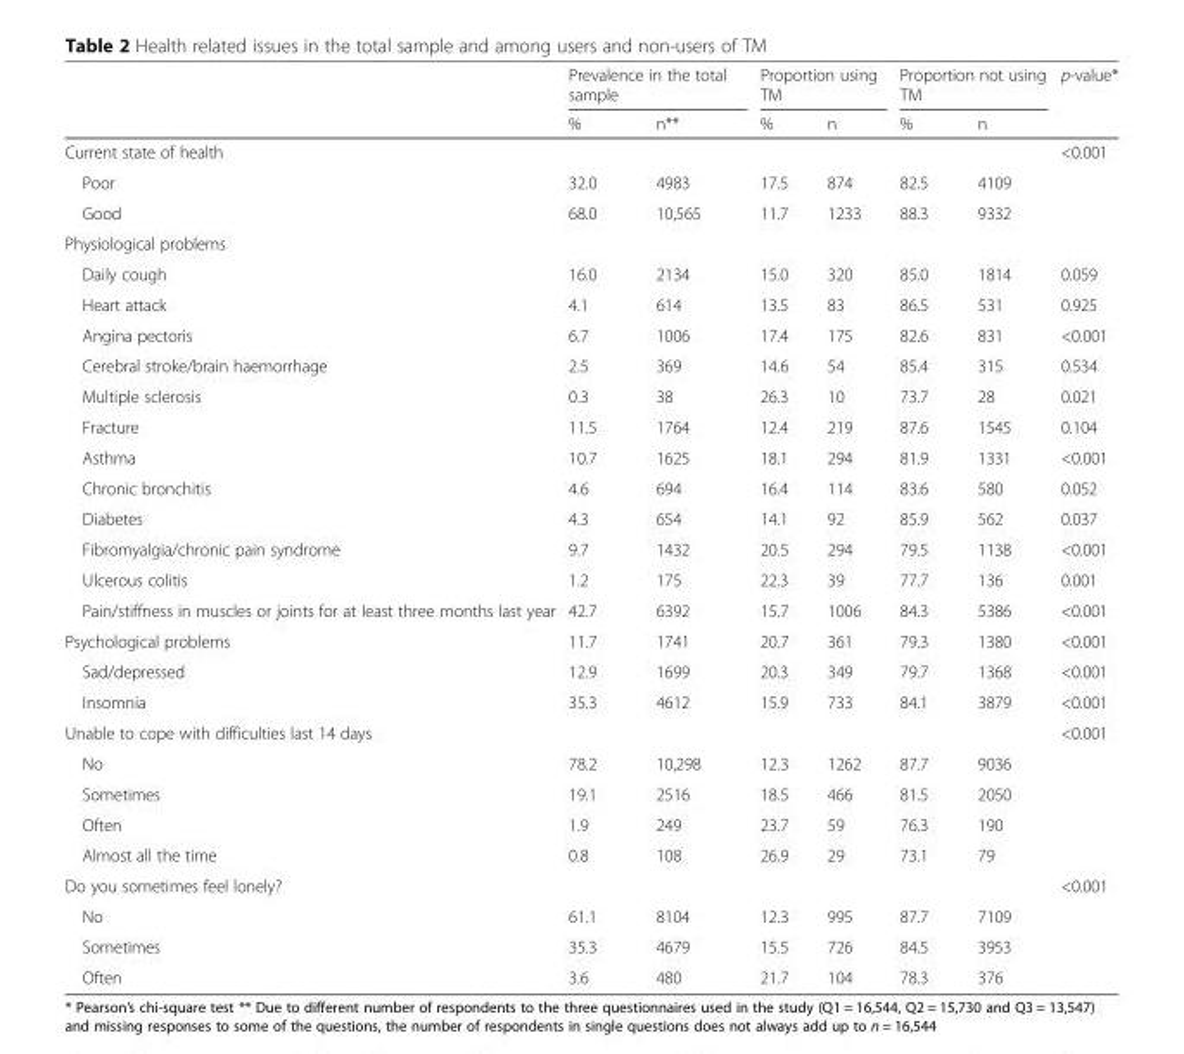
<table><thead><tr><td rowspan="2"></td><td colspan="2">Prevalence in the total sample</td><td colspan="2">Proportion using TM</td><td colspan="2">Proportion not using TM</td><td rowspan="2">p-value*</td></tr><tr><td>%</td><td>n**</td><td>%</td><td>n</td><td>%</td><td>n</td></tr></thead><tbody><tr><td>Current state of health</td><td></td><td></td><td></td><td></td><td></td><td></td><td>&lt;0.001</td></tr><tr><td>Poor</td><td>32.0</td><td>4983</td><td>17.5</td><td>874</td><td>82.5</td><td>4109</td><td></td></tr><tr><td>Good</td><td>68.0</td><td>10,565</td><td>11.7</td><td>1233</td><td>88.3</td><td>9332</td><td></td></tr><tr><td colspan="8">Physiological problems</td></tr><tr><td>Daily cough</td><td>16.0</td><td>2134</td><td>15.0</td><td>320</td><td>85.0</td><td>1814</td><td>0.059</td></tr><tr><td>Heart attack</td><td>4.1</td><td>614</td><td>13.5</td><td>83</td><td>86.5</td><td>531</td><td>0.925</td></tr><tr><td>Angina pectoris</td><td>6.7</td><td>1006</td><td>17.4</td><td>175</td><td>82.6</td><td>831</td><td>&lt;0.001</td></tr><tr><td>Cerebral stroke/brain haemorrhage</td><td>2.5</td><td>369</td><td>14.6</td><td>54</td><td>85.4</td><td>315</td><td>0.534</td></tr><tr><td>Multiple sclerosis</td><td>0.3</td><td>38</td><td>26.3</td><td>10</td><td>73.7</td><td>28</td><td>0.021</td></tr><tr><td>Fracture</td><td>11.5</td><td>1764</td><td>12.4</td><td>219</td><td>87.6</td><td>1545</td><td>0.104</td></tr><tr><td>Asthma</td><td>10.7</td><td>1625</td><td>18.1</td><td>294</td><td>81.9</td><td>1331</td><td>&lt;0.001</td></tr><tr><td>Chronic bronchitis</td><td>4.6</td><td>694</td><td>16.4</td><td>114</td><td>83.6</td><td>580</td><td>0.052</td></tr><tr><td>Diabetes</td><td>4.3</td><td>654</td><td>14.1</td><td>92</td><td>85.9</td><td>562</td><td>0.037</td></tr><tr><td>Fibromyalgia/chronic pain syndrome</td><td>9.7</td><td>1432</td><td>20.5</td><td>294</td><td>79.5</td><td>1138</td><td>&lt;0.001</td></tr><tr><td>Ulcerous colitis</td><td>1.2</td><td>175</td><td>22.3</td><td>39</td><td>77.7</td><td>136</td><td>0.001</td></tr><tr><td>Pain/stiffness in muscles or joints for at least three months last year</td><td>42.7</td><td>6392</td><td>15.7</td><td>1006</td><td>84.3</td><td>5386</td><td>&lt;0.001</td></tr><tr><td>Psychological problems</td><td>11.7</td><td>1741</td><td>20.7</td><td>361</td><td>79.3</td><td>1380</td><td>&lt;0.001</td></tr><tr><td>Sad/depressed</td><td>12.9</td><td>1699</td><td>20.3</td><td>349</td><td>79.7</td><td>1368</td><td>&lt;0.001</td></tr><tr><td>Insomnia</td><td>35.3</td><td>4612</td><td>15.9</td><td>733</td><td>84.1</td><td>3879</td><td>&lt;0.001</td></tr><tr><td>Unable to cope with difficulties last 14 days</td><td></td><td></td><td></td><td></td><td></td><td></td><td>&lt;0.001</td></tr><tr><td>No</td><td>78.2</td><td>10,298</td><td>12.3</td><td>1262</td><td>87.7</td><td>9036</td><td></td></tr><tr><td>Sometimes</td><td>19.1</td><td>2516</td><td>18.5</td><td>466</td><td>81.5</td><td>2050</td><td></td></tr><tr><td>Often</td><td>1.9</td><td>249</td><td>23.7</td><td>59</td><td>76.3</td><td>190</td><td></td></tr><tr><td>Almost all the time</td><td>0.8</td><td>108</td><td>26.9</td><td>29</td><td>73.1</td><td>79</td><td></td></tr><tr><td>Do you sometimes feel lonely?</td><td></td><td></td><td></td><td></td><td></td><td></td><td>&lt;0.001</td></tr><tr><td>No</td><td>61.1</td><td>8104</td><td>12.3</td><td>995</td><td>87.7</td><td>7109</td><td></td></tr><tr><td>Sometimes</td><td>35.3</td><td>4679</td><td>15.5</td><td>726</td><td>84.5</td><td>3953</td><td></td></tr><tr><td>Often</td><td>3.6</td><td>480</td><td>21.7</td><td>104</td><td>78.3</td><td>376</td><td></td></tr></tbody></table>